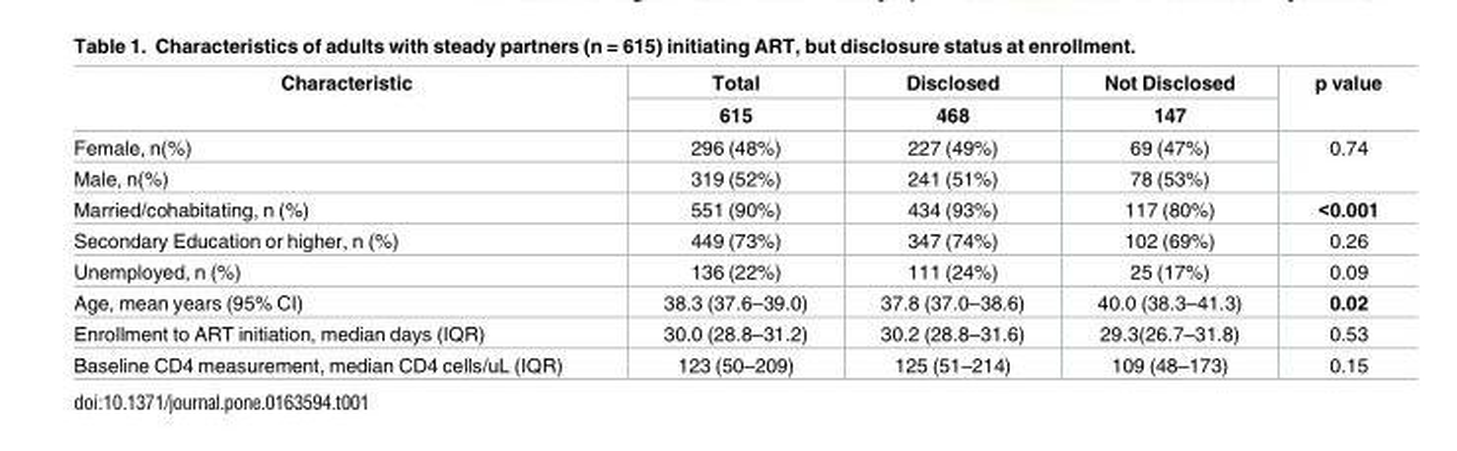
<table><thead><tr><td rowspan="2">Characteristic</td><td rowspan="2">Total 615</td><td rowspan="2">Disclosed 468</td><td rowspan="2">Not Disclosed 147</td><td rowspan="2">p value</td></tr><tr></tr></thead><tbody><tr><td>Female, n(%)</td><td>296 (48%)</td><td>227 (49%)</td><td>69 (47%)</td><td rowspan="2">0.74</td></tr><tr><td>Male, n(%)</td><td>319 (52%)</td><td>241 (51%)</td><td>78 (53%)</td></tr><tr><td>Married/cohabitating, n (%)</td><td>551 (90%)</td><td>434 (93%)</td><td>117 (80%)</td><td>&lt;0.001</td></tr><tr><td>Secondary Education or higher, n (%)</td><td>449 (73%)</td><td>347 (74%)</td><td>102 (69%)</td><td>0.26</td></tr><tr><td>Unemployed, n (%)</td><td>136 (22%)</td><td>111 (24%)</td><td>25 (17%)</td><td>0.09</td></tr><tr><td>Age, mean years (95% CI)</td><td>38.3 (37.6–39.0)</td><td>37.8 (37.0–38.6)</td><td>40.0 (38.3–41.3)</td><td>0.02</td></tr><tr><td>Enrollment to ART initiation, median days (IQR)</td><td>30.0 (28.8–31.2)</td><td>30.2 (28.8–31.6)</td><td>29.3(26.7–31.8)</td><td>0.53</td></tr><tr><td>Baseline CD4 measurement, median CD4 cells/uL (IQR)</td><td>123 (50–209)</td><td>125 (51–214)</td><td>109 (48–173)</td><td>0.15</td></tr></tbody></table>